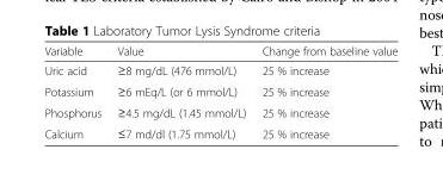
<table><thead><tr><td>Variable</td><td>Value</td><td>Change from baseline value</td></tr></thead><tbody><tr><td>Uric acid</td><td>≥8 mg/dL (476 mmol/L)</td><td>25 % increase</td></tr><tr><td>Potassium</td><td>≥6 mEq/L (or 6 mmol/L)</td><td>25 % increase</td></tr><tr><td>Phosphorus</td><td>≥4.5 mg/dL (1.45 mmol/L)</td><td>25 % increase</td></tr><tr><td>Calcium</td><td>≤7 md/dl (1.75 mmol/L)</td><td>25 % increase</td></tr></tbody></table>